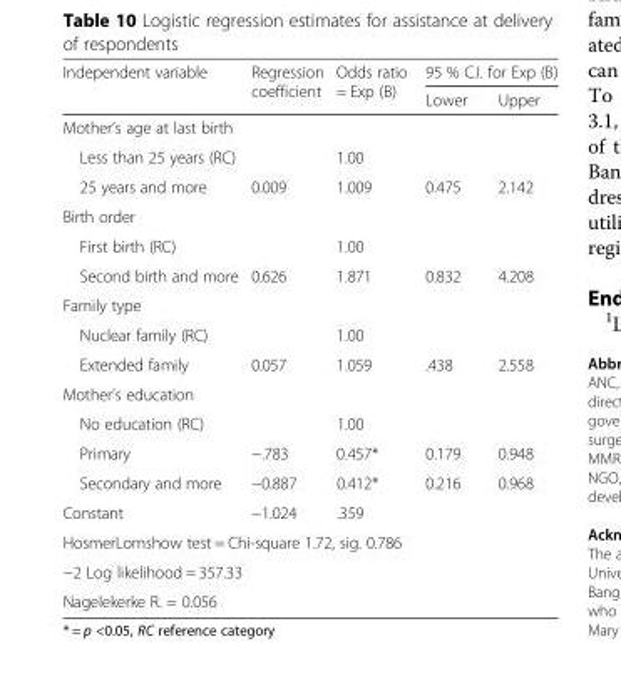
<table><thead><tr><td rowspan="2">Independent variable</td><td rowspan="2">Regression coefficient</td><td rowspan="2">Odds ratio = Exp (B)</td><td colspan="2">95 % C.I. for Exp (B)</td></tr><tr><td>Lower</td><td>Upper</td></tr></thead><tbody><tr><td colspan="5">Mother’s age at last birth</td></tr><tr><td>Less than 25 years (RC)</td><td></td><td>1.00</td><td></td><td></td></tr><tr><td>25 years and more</td><td>0.009</td><td>1.009</td><td>0.475</td><td>2.142</td></tr><tr><td colspan="5">Birth order</td></tr><tr><td>First birth (RC)</td><td></td><td>1.00</td><td></td><td></td></tr><tr><td>Second birth and more</td><td>0.626</td><td>1.871</td><td>0.832</td><td>4.208</td></tr><tr><td colspan="5">Family type</td></tr><tr><td>Nuclear family (RC)</td><td></td><td>1.00</td><td></td><td></td></tr><tr><td>Extended family</td><td>0.057</td><td>1.059</td><td>.438</td><td>2.558</td></tr><tr><td colspan="5">Mother’s education</td></tr><tr><td>No education (RC)</td><td></td><td>1.00</td><td></td><td></td></tr><tr><td>Primary</td><td>−.783</td><td>0.457*</td><td>0.179</td><td>0.948</td></tr><tr><td>Secondary and more</td><td>−0.887</td><td>0.412*</td><td>0.216</td><td>0.968</td></tr><tr><td>Constant</td><td>−1.024</td><td>.359</td><td></td><td></td></tr><tr><td colspan="5">HosmerLomshow test = Chi-square 1.72, sig. 0.786</td></tr><tr><td colspan="5">−2 Log likelihood = 357.33</td></tr><tr><td colspan="5">Nagelekerke R. = 0.056</td></tr></tbody></table>